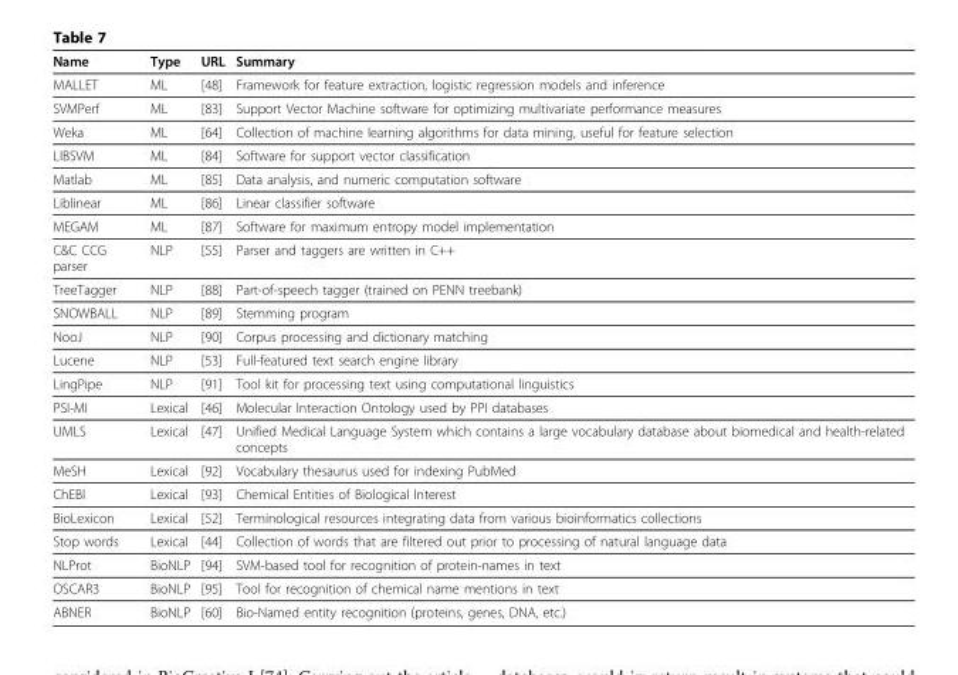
<table><thead><tr><td>Name</td><td>Type</td><td>URL</td><td>Summary</td></tr></thead><tbody><tr><td>MALLET</td><td>ML</td><td>[48]</td><td>Framework for feature extraction, logistic regression models and inference</td></tr><tr><td>SVMPerf</td><td>ML</td><td>[83]</td><td>Support Vector Machine software for optimizing multivariate performance measures</td></tr><tr><td>Weka</td><td>ML</td><td>[64]</td><td>Collection of machine learning algorithms for data mining, useful for feature selection</td></tr><tr><td>LIBSVM</td><td>ML</td><td>[84]</td><td>Software for support vector classification</td></tr><tr><td>Matlab</td><td>ML</td><td>[85]</td><td>Data analysis, and numeric computation software</td></tr><tr><td>Liblinear</td><td>ML</td><td>[86]</td><td>Linear classifier software</td></tr><tr><td>MEGAM</td><td>ML</td><td>[87]</td><td>Software for maximum entropy model implementation</td></tr><tr><td>C&amp;C CCG parser</td><td>NLP</td><td>[55]</td><td>Parser and taggers are written in C++</td></tr><tr><td>TreeTagger</td><td>NLP</td><td>[88]</td><td>Part-of-speech tagger (trained on PENN treebank)</td></tr><tr><td>SNOWBALL</td><td>NLP</td><td>[89]</td><td>Stemming program</td></tr><tr><td>NooJ</td><td>NLP</td><td>[90]</td><td>Corpus processing and dictionary matching</td></tr><tr><td>Lucene</td><td>NLP</td><td>[53]</td><td>Full-featured text search engine library</td></tr><tr><td>LingPipe</td><td>NLP</td><td>[91]</td><td>Tool kit for processing text using computational linguistics</td></tr><tr><td>PSI-MI</td><td>Lexical</td><td>[46]</td><td>Molecular Interaction Ontology used by PPI databases</td></tr><tr><td>UMLS</td><td>Lexical</td><td>[47]</td><td>Unified Medical Language System which contains a large vocabulary database about biomedical and health-related concepts</td></tr><tr><td>MeSH</td><td>Lexical</td><td>[92]</td><td>Vocabulary thesaurus used for indexing PubMed</td></tr><tr><td>ChEBI</td><td>Lexical</td><td>[93]</td><td>Chemical Entities of Biological Interest</td></tr><tr><td>BioLexicon</td><td>Lexical</td><td>[52]</td><td>Terminological resources integrating data from various bioinformatics collections</td></tr><tr><td>Stop words</td><td>Lexical</td><td>[44]</td><td>Collection of words that are filtered out prior to processing of natural language data</td></tr><tr><td>NLProt</td><td>BioNLP</td><td>[94]</td><td>SVM-based tool for recognition of protein-names in text</td></tr><tr><td>OSCAR3</td><td>BioNLP</td><td>[95]</td><td>Tool for recognition of chemical name mentions in text</td></tr><tr><td>ABNER</td><td>BioNLP</td><td>[60]</td><td>Bio-Named entity recognition (proteins, genes, DNA, etc.)</td></tr></tbody></table>